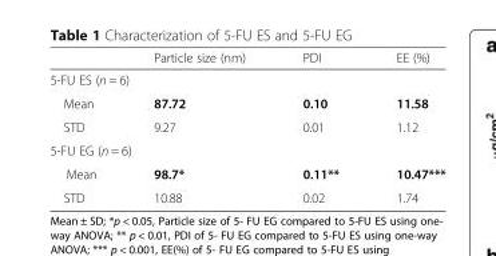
<table><thead><tr><td></td><td>Particle size (nm)</td><td>PDI</td><td>EE (%)</td></tr></thead><tbody><tr><td colspan="4">5-FU ES (n = 6)</td></tr><tr><td>Mean</td><td>87.72</td><td>0.10</td><td>11.58</td></tr><tr><td>STD</td><td>9.27</td><td>0.01</td><td>1.12</td></tr><tr><td colspan="4">5-FU EG (n = 6)</td></tr><tr><td>Mean</td><td>98.7*</td><td>0.11**</td><td>10.47***</td></tr><tr><td>STD</td><td>10.88</td><td>0.02</td><td>1.74</td></tr></tbody></table>